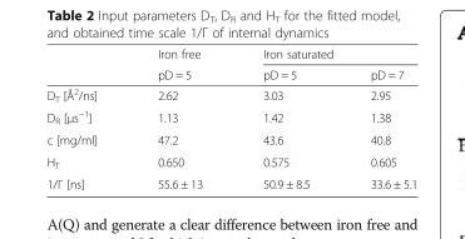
<table><thead><tr><td rowspan="2"></td><td rowspan="2">Iron free pD = 5</td><td colspan="2">Iron saturated</td></tr><tr><td>pD = 5</td><td>pD = 7</td></tr></thead><tbody><tr><td>D<sub>T</sub> [Å<sup>2</sup>/ns]</td><td>2.62</td><td>3.03</td><td>2.95</td></tr><tr><td>D<sub>R</sub> [μs<sup>−1</sup>]</td><td>1.13</td><td>1.42</td><td>1.38</td></tr><tr><td>c [mg/ml]</td><td>47.2</td><td>43.6</td><td>40.8</td></tr><tr><td>H<sub>T</sub></td><td>0.650</td><td>0.575</td><td>0.605</td></tr><tr><td>1/Γ [ns]</td><td>55.6 ± 13</td><td>50.9 ± 8.5</td><td>33.6 ± 5.1</td></tr></tbody></table>